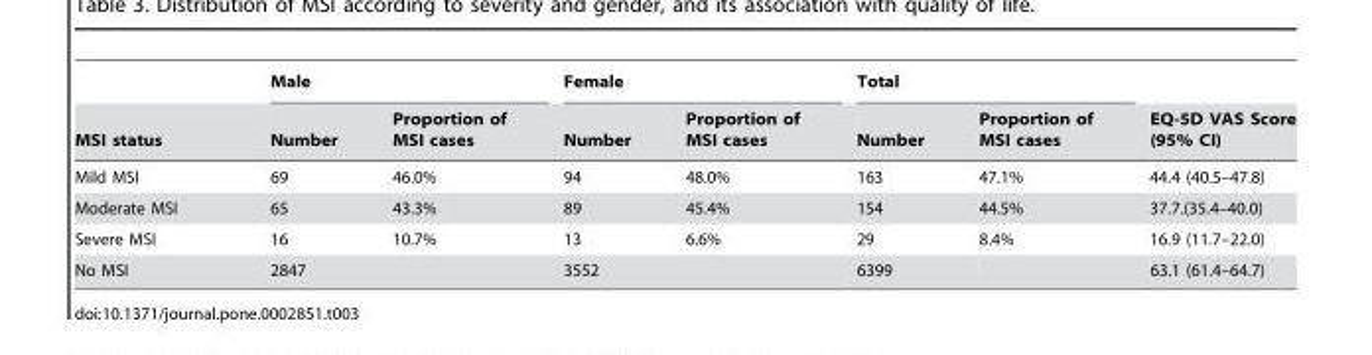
<table><thead><tr><td rowspan="2">MSI status</td><td colspan="2">Male</td><td colspan="2">Female</td><td colspan="2">Total</td><td rowspan="2">EQ-5D VAS Score (95% CI)</td></tr><tr><td>Number</td><td>Proportion of MSI cases</td><td>Number</td><td>Proportion of MSI cases</td><td>Number</td><td>Proportion of MSI cases</td></tr></thead><tbody><tr><td>Mild MSI</td><td>69</td><td>46.0%</td><td>94</td><td>48.0%</td><td>163</td><td>47.1%</td><td>44.4 (40.5–47.8)</td></tr><tr><td>Moderate MSI</td><td>65</td><td>43.3%</td><td>89</td><td>45.4%</td><td>154</td><td>44.5%</td><td>37.7.(35.4–40.0)</td></tr><tr><td>Severe MSI</td><td>16</td><td>10.7%</td><td>13</td><td>6.6%</td><td>29</td><td>8.4%</td><td>16.9 (11.7–22.0)</td></tr><tr><td>No MSI</td><td>2847</td><td></td><td>3552</td><td></td><td>6399</td><td></td><td>63.1 (61.4–64.7)</td></tr></tbody></table>